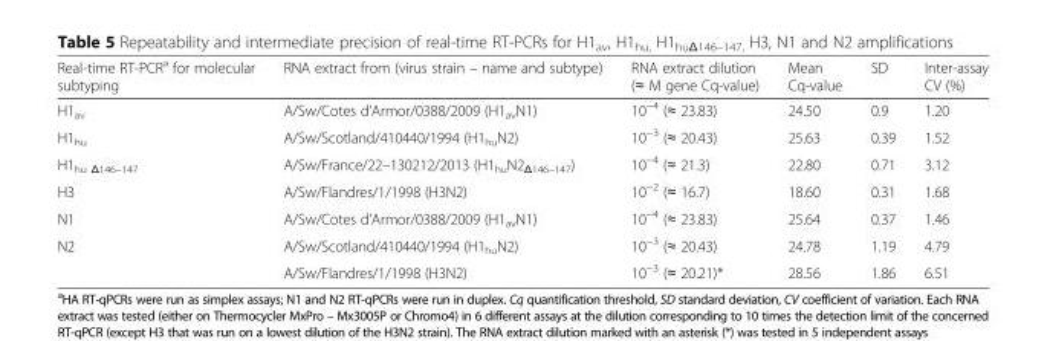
<table><thead><tr><td>Real-time RT-PCR<sup>a</sup> for molecular subtyping</td><td>RNA extract from (virus strain – name and subtype)</td><td>RNA extract dilution (≈ M gene Cq-value)</td><td>Mean Cq-value</td><td>SD</td><td>Inter-assay CV (%)</td></tr></thead><tbody><tr><td>H1<sub>av</sub></td><td>A/Sw/Cotes d’Armor/0388/2009 (H1<sub>av</sub>N1)</td><td>10<sup>−4</sup> (≈ 23.83)</td><td>24.50</td><td>0.9</td><td>1.20</td></tr><tr><td>H1<sub>hu</sub></td><td>A/Sw/Scotland/410440/1994 (H1<sub>hu</sub>N2)</td><td>10<sup>−3</sup> (≈ 20.43)</td><td>25.63</td><td>0.39</td><td>1.52</td></tr><tr><td>H1<sub>hu Δ146–147</sub></td><td>A/Sw/France/22–130212/2013 (H1<sub>hu</sub>N2<sub>Δ146–147</sub>)</td><td>10<sup>−4</sup> (≈ 21.3)</td><td>22.80</td><td>0.71</td><td>3.12</td></tr><tr><td>H3</td><td>A/Sw/Flandres/1/1998 (H3N2)</td><td>10<sup>−2</sup> (≈ 16.7)</td><td>18.60</td><td>0.31</td><td>1.68</td></tr><tr><td>N1</td><td>A/Sw/Cotes d’Armor/0388/2009 (H1<sub>av</sub>N1)</td><td>10<sup>−4</sup> (≈ 23.83)</td><td>25.64</td><td>0.37</td><td>1.46</td></tr><tr><td rowspan="2">N2</td><td>A/Sw/Scotland/410440/1994 (H1<sub>hu</sub>N2)</td><td>10<sup>−3</sup> (≈ 20.43)</td><td>24.78</td><td>1.19</td><td>4.79</td></tr><tr><td>A/Sw/Flandres/1/1998 (H3N2)</td><td>10<sup>−3</sup> (≈ 20.21)*</td><td>28.56</td><td>1.86</td><td>6.51</td></tr></tbody></table>